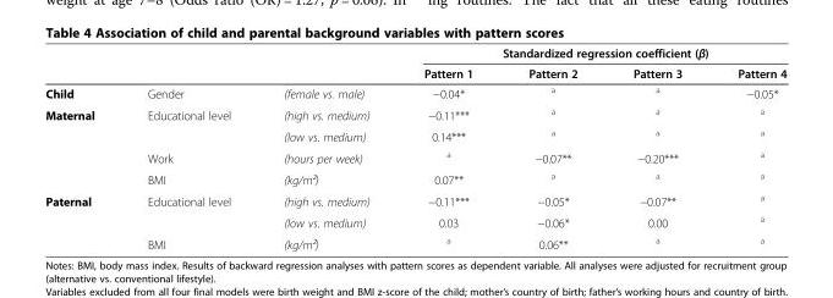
<table><thead><tr><td rowspan="2"></td><td rowspan="2"></td><td rowspan="2"></td><td colspan="4">Standardized regression coefficient (β)</td></tr><tr><td>Pattern 1</td><td>Pattern 2</td><td>Pattern 3</td><td>Pattern 4</td></tr></thead><tbody><tr><td>Child</td><td>Gender</td><td>(female vs. male)</td><td>−0.04*</td><td><sup>a</sup></td><td><sup>a</sup></td><td>−0.05*</td></tr><tr><td rowspan="4">Maternal</td><td>Educational level</td><td>(high vs. medium)</td><td>−0.11***</td><td><sup>a</sup></td><td><sup>a</sup></td><td><sup>a</sup></td></tr><tr><td></td><td>(low vs. medium)</td><td>0.14***</td><td><sup>a</sup></td><td><sup>a</sup></td><td><sup>a</sup></td></tr><tr><td>Work</td><td>(hours per week)</td><td><sup>a</sup></td><td>−0.07**</td><td>−0.20***</td><td><sup>a</sup></td></tr><tr><td>BMI</td><td>(kg/m²)</td><td>0.07**</td><td><sup>a</sup></td><td><sup>a</sup></td><td><sup>a</sup></td></tr><tr><td rowspan="3">Paternal</td><td>Educational level</td><td>(high vs. medium)</td><td>−0.11***</td><td>−0.05*</td><td>−0.07**</td><td><sup>a</sup></td></tr><tr><td></td><td>(low vs. medium)</td><td>0.03</td><td>−0.06*</td><td>0.00</td><td><sup>a</sup></td></tr><tr><td>BMI</td><td>(kg/m²)</td><td><sup>a</sup></td><td>0.06**</td><td><sup>a</sup></td><td><sup>a</sup></td></tr></tbody></table>